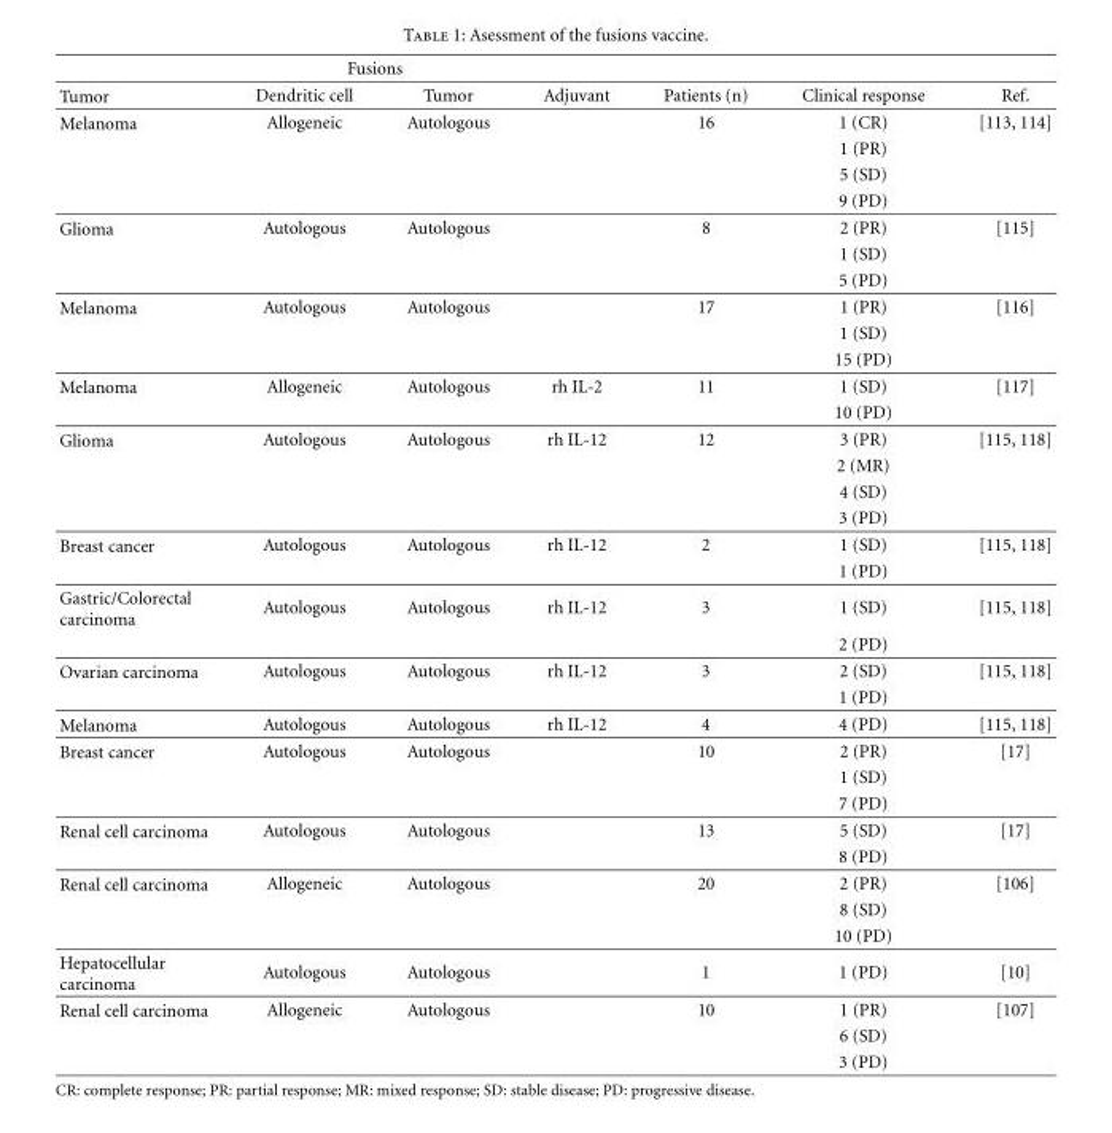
<table><thead><tr><td rowspan="2">Tumor</td><td colspan="2">Fusions</td><td rowspan="2">Adjuvant</td><td rowspan="2">Patients (n)</td><td rowspan="2">Clinical response</td><td rowspan="2">Ref.</td></tr><tr><td>Dendritic cell</td><td>Tumor</td></tr></thead><tbody><tr><td rowspan="4">Melanoma</td><td>Allogeneic</td><td>Autologous</td><td></td><td>16</td><td>1 (CR)</td><td>[113, 114]</td></tr><tr><td></td><td></td><td></td><td></td><td>1 (PR)</td><td></td></tr><tr><td></td><td></td><td></td><td></td><td>5 (SD)</td><td></td></tr><tr><td></td><td></td><td></td><td></td><td>9 (PD)</td><td></td></tr><tr><td rowspan="3">Glioma</td><td>Autologous</td><td>Autologous</td><td></td><td>8</td><td>2 (PR)</td><td>[115]</td></tr><tr><td></td><td></td><td></td><td></td><td>1 (SD)</td><td></td></tr><tr><td></td><td></td><td></td><td></td><td>5 (PD)</td><td></td></tr><tr><td rowspan="3">Melanoma</td><td>Autologous</td><td>Autologous</td><td></td><td>17</td><td>1 (PR)</td><td>[116]</td></tr><tr><td></td><td></td><td></td><td></td><td>1 (SD)</td><td></td></tr><tr><td></td><td></td><td></td><td></td><td>15 (PD)</td><td></td></tr><tr><td rowspan="2">Melanoma</td><td>Allogeneic</td><td>Autologous</td><td>rh IL-2</td><td>11</td><td>1 (SD)</td><td>[117]</td></tr><tr><td></td><td></td><td></td><td></td><td>10 (PD)</td><td></td></tr><tr><td rowspan="4">Glioma</td><td>Autologous</td><td>Autologous</td><td>rh IL-12</td><td>12</td><td>3 (PR)</td><td>[115, 118]</td></tr><tr><td></td><td></td><td></td><td></td><td>2 (MR)</td><td></td></tr><tr><td></td><td></td><td></td><td></td><td>4 (SD)</td><td></td></tr><tr><td></td><td></td><td></td><td></td><td>3 (PD)</td><td></td></tr><tr><td rowspan="2">Breast cancer</td><td>Autologous</td><td>Autologous</td><td>rh IL-12</td><td>2</td><td>1 (SD)</td><td>[115, 118]</td></tr><tr><td></td><td></td><td></td><td></td><td>1 (PD)</td><td></td></tr><tr><td rowspan="2">Gastric/Colorectal carcinoma</td><td>Autologous</td><td>Autologous</td><td>rh IL-12</td><td>3</td><td>1 (SD)</td><td>[115, 118]</td></tr><tr><td></td><td></td><td></td><td></td><td>2 (PD)</td><td></td></tr><tr><td rowspan="2">Ovarian carcinoma</td><td>Autologous</td><td>Autologous</td><td>rh IL-12</td><td>3</td><td>2 (SD)</td><td>[115, 118]</td></tr><tr><td></td><td></td><td></td><td></td><td>1 (PD)</td><td></td></tr><tr><td>Melanoma</td><td>Autologous</td><td>Autologous</td><td>rh IL-12</td><td>4</td><td>4 (PD)</td><td>[115, 118]</td></tr><tr><td rowspan="3">Breast cancer</td><td>Autologous</td><td>Autologous</td><td></td><td>10</td><td>2 (PR)</td><td>[17]</td></tr><tr><td></td><td></td><td></td><td></td><td>1 (SD)</td><td></td></tr><tr><td></td><td></td><td></td><td></td><td>7 (PD)</td><td></td></tr><tr><td rowspan="2">Renal cell carcinoma</td><td>Autologous</td><td>Autologous</td><td></td><td>13</td><td>5 (SD)</td><td>[17]</td></tr><tr><td></td><td></td><td></td><td></td><td>8 (PD)</td><td></td></tr><tr><td rowspan="3">Renal cell carcinoma</td><td>Allogeneic</td><td>Autologous</td><td></td><td>20</td><td>2 (PR)</td><td>[106]</td></tr><tr><td></td><td></td><td></td><td></td><td>8 (SD)</td><td></td></tr><tr><td></td><td></td><td></td><td></td><td>10 (PD)</td><td></td></tr><tr><td>Hepatocellular carcinoma</td><td>Autologous</td><td>Autologous</td><td></td><td>1</td><td>1 (PD)</td><td>[10]</td></tr><tr><td rowspan="3">Renal cell carcinoma</td><td>Allogeneic</td><td>Autologous</td><td></td><td>10</td><td>1 (PR)</td><td>[107]</td></tr><tr><td></td><td></td><td></td><td></td><td>6 (SD)</td><td></td></tr><tr><td></td><td></td><td></td><td></td><td>3 (PD)</td><td></td></tr></tbody></table>